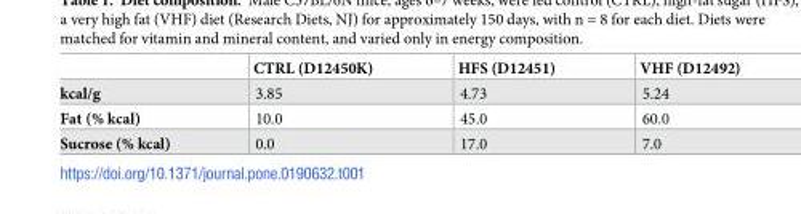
<table><thead><tr><td></td><td>CTRL (D12450K)</td><td>HFS (D12451)</td><td>VHF (D12492)</td></tr></thead><tbody><tr><td>kcal/g</td><td>3.85</td><td>4.73</td><td>5.24</td></tr><tr><td>Fat (% kcal)</td><td>10.0</td><td>45.0</td><td>60.0</td></tr><tr><td>Sucrose (% kcal)</td><td>0.0</td><td>17.0</td><td>7.0</td></tr></tbody></table>